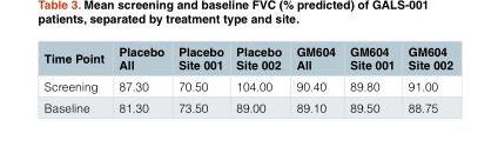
<table><thead><tr><td>Time Point</td><td>Placebo All</td><td>Placebo Site 001</td><td>Placebo Site 002</td><td>GM604 All</td><td>GM604 Site 001</td><td>GM604 Site 002</td></tr></thead><tbody><tr><td>Screening</td><td>87.30</td><td>70.50</td><td>104.00</td><td>90.40</td><td>89.80</td><td>91.00</td></tr><tr><td>Baseline</td><td>81.30</td><td>73.50</td><td>89.00</td><td>89.10</td><td>89.50</td><td>88.75</td></tr></tbody></table>